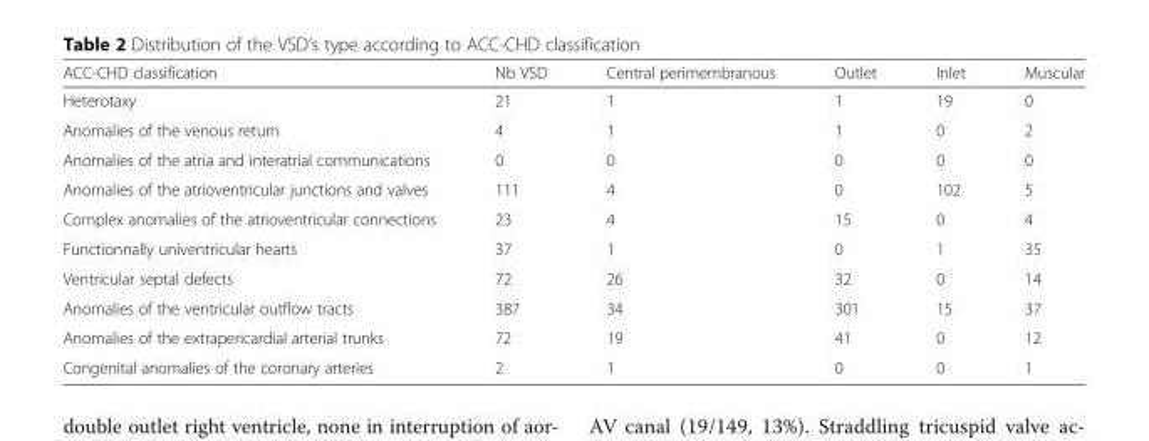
<table><thead><tr><td>ACC-CHD classification</td><td>Nb VSD</td><td>Central perimembranous</td><td>Outlet</td><td>Inlet</td><td>Muscular</td></tr></thead><tbody><tr><td>Heterotaxy</td><td>21</td><td>1</td><td>1</td><td>19</td><td>0</td></tr><tr><td>Anomalies of the venous return</td><td>4</td><td>1</td><td>1</td><td>0</td><td>2</td></tr><tr><td>Anomalies of the atria and interatrial communications</td><td>0</td><td>0</td><td>0</td><td>0</td><td>0</td></tr><tr><td>Anomalies of the atrioventricular junctions and valves</td><td>111</td><td>4</td><td>0</td><td>102</td><td>5</td></tr><tr><td>Complex anomalies of the atrioventricular connections</td><td>23</td><td>4</td><td>15</td><td>0</td><td>4</td></tr><tr><td>Functionnally univentricular hearts</td><td>37</td><td>1</td><td>0</td><td>1</td><td>35</td></tr><tr><td>Ventricular septal defects</td><td>72</td><td>26</td><td>32</td><td>0</td><td>14</td></tr><tr><td>Anomalies of the ventricular outflow tracts</td><td>387</td><td>34</td><td>301</td><td>15</td><td>37</td></tr><tr><td>Anomalies of the extrapericardial arterial trunks</td><td>72</td><td>19</td><td>41</td><td>0</td><td>12</td></tr><tr><td>Congenital anomalies of the coronary arteries</td><td>2</td><td>1</td><td>0</td><td>0</td><td>1</td></tr></tbody></table>